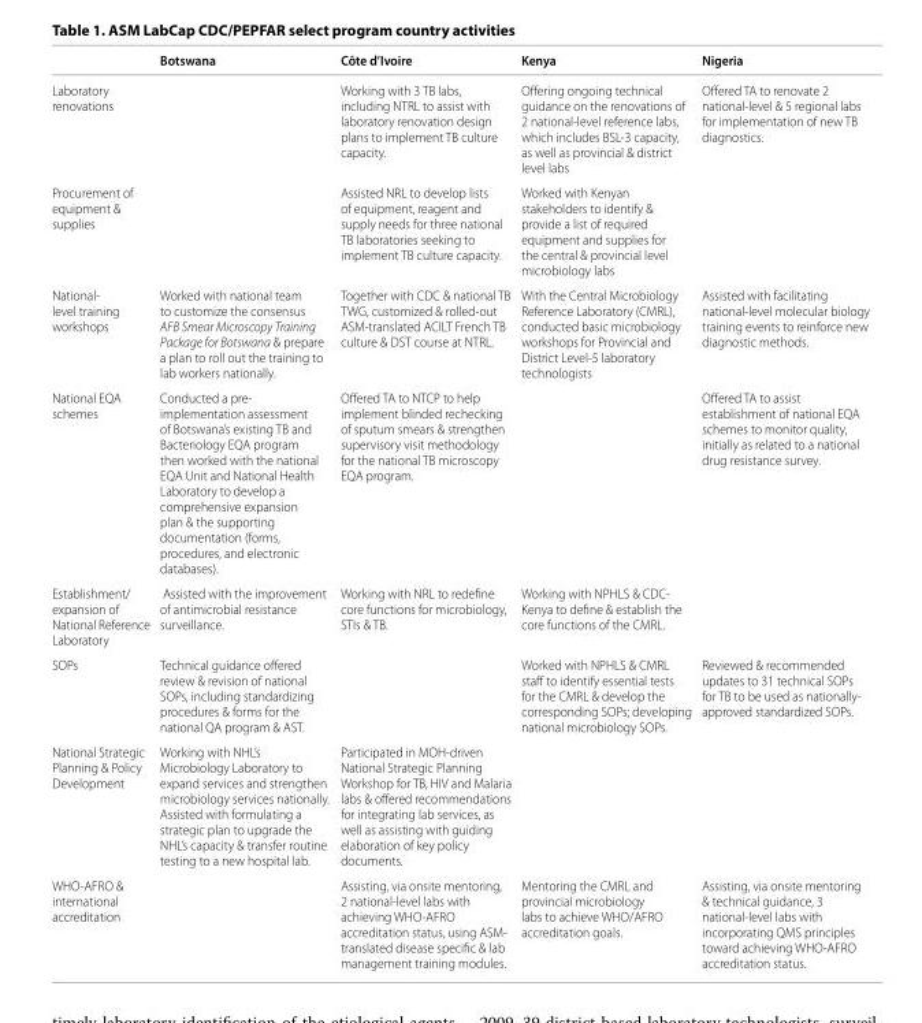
<table><thead><tr><td></td><td>Botswana</td><td>Cô te d’Ivoire</td><td>Kenya</td><td>Nigeria</td></tr></thead><tbody><tr><td>Laboratory renovations</td><td></td><td>Working with 3 TB labs, including NTRL to assist with laboratory renovation design plans to implement TB culture capacity.</td><td>Off ering ongoing technical guidance on the renovations of 2 national-level reference labs, which includes BSL-3 capacity, as well as provincial &amp; district level labs</td><td>Off ered TA to renovate 2 national-level &amp; 5 regional labs for implementation of new TB diagnostics.</td></tr><tr><td>Procurement of equipment &amp; supplies</td><td></td><td>Assisted NRL to develop lists of equipment, reagent and supply needs for three national TB laboratories seeking to implement TB culture capacity.</td><td>Worked with Kenyan stakeholders to identify &amp; provide a list of required equipment and supplies for the central &amp; provincial level microbiology labs</td><td></td></tr><tr><td>National- level training workshops</td><td>Worked with national team to customize the consensus AFB Smear Microscopy Training Package for Botswana &amp; prepare a plan to roll out the training to lab workers nationally.</td><td>Together with CDC &amp; national TB TWG, customized &amp; rolled-out ASM-translated ACILT French TB culture &amp; DST course at NTRL.</td><td>With the Central Microbiology Reference Laboratory (CMRL), conducted basic microbiology workshops for Provincial and District Level-5 laboratory technologists</td><td>Assisted with facilitating national-level molecular biology training events to reinforce new diagnostic methods.</td></tr><tr><td>National EQA schemes</td><td>Conducted a pre- implementation assessment of Botswana’s existing TB and Bacteriology EQA program then worked with the national EQA Unit and National Health Laboratory to develop a comprehensive expansion plan &amp; the supporting documentation (forms, procedures, and electronic databases).</td><td>Off ered TA to NTCP to help implement blinded rechecking of sputum smears &amp; strengthen supervisory visit methodology for the national TB microscopy EQA program.</td><td></td><td>Off ered TA to assist establishment of national EQA schemes to monitor quality, initially as related to a national drug resistance survey.</td></tr><tr><td>Establishment/ expansion of National Reference Laboratory</td><td>Assisted with the improvement of antimicrobial resistance surveillance.</td><td>Working with NRL to redefi ne core functions for microbiology, STIs &amp; TB.</td><td>Working with NPHLS &amp; CDC- Kenya to defi ne &amp; establish the core functions of the CMRL.</td><td></td></tr><tr><td>SOPs</td><td>Technical guidance off ered review &amp; revision of national SOPs, including standardizing procedures &amp; forms for the national QA program &amp; AST.</td><td></td><td>Worked with NPHLS &amp; CMRL staff to identify essential tests for the CMRL &amp; develop the corresponding SOPs; developing national microbiology SOPs.</td><td>Reviewed &amp; recommended updates to 31 technical SOPs for TB to be used as nationally- approved standardized SOPs.</td></tr><tr><td>National Strategic Planning &amp; Policy Development</td><td>Working with NHL’s Microbiology Laboratory to expand services and strengthen microbiology services nationally. Assisted with formulating a strategic plan to upgrade the NHL’s capacity &amp; transfer routine testing to a new hospital lab.</td><td>Participated in MOH-driven National Strategic Planning Workshop for TB, HIV and Malaria labs &amp; off ered recommendations for integrating lab services, as well as assisting with guiding elaboration of key policy documents.</td><td></td><td></td></tr><tr><td>WHO-AFRO &amp; international accreditation</td><td></td><td>Assisting, via onsite mentoring, 2 national-level labs with achieving WHO-AFRO accreditation status, using ASM- translated disease specifi c &amp; lab management training modules.</td><td>Mentoring the CMRL and provincial microbiology labs to achieve WHO/AFRO accreditation goals.</td><td>Assisting, via onsite mentoring &amp; technical guidance, 3 national-level labs with incorporating QMS principles toward achieving WHO-AFRO accreditation status.</td></tr></tbody></table>